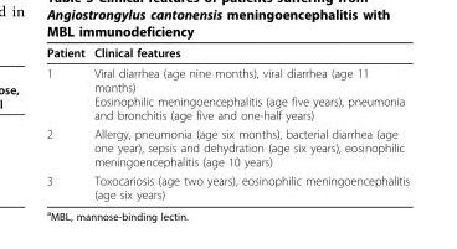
<table><thead><tr><td>Patient</td><td>Clinical features</td></tr></thead><tbody><tr><td>1</td><td>Viral diarrhea (age nine months), viral diarrhea (age 11 months) Eosinophilic meningoencephalitis (age five years), pneumonia and bronchitis (age five and one-half years)</td></tr><tr><td>2</td><td>Allergy, pneumonia (age six months), bacterial diarrhea (age one year), sepsis and dehydration (age six years), eosinophilic meningoencephalitis (age 10 years)</td></tr><tr><td>3</td><td>Toxocariosis (age two years), eosinophilic meningoencephalitis (age six years)</td></tr></tbody></table>